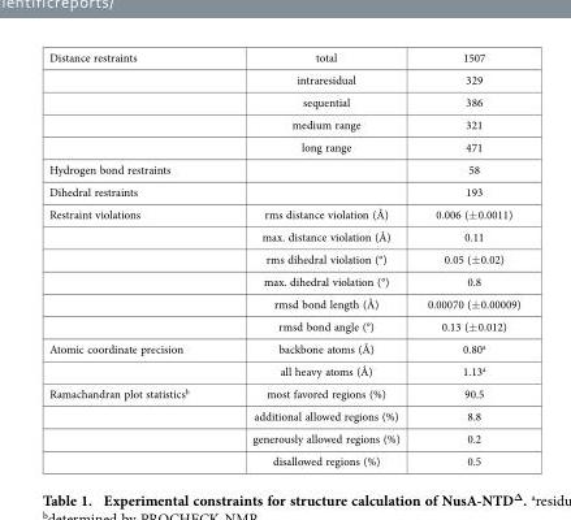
<table><tbody><tr><td rowspan="5">Distance restraints</td><td>total</td><td>1507</td></tr><tr><td>intraresidual</td><td>329</td></tr><tr><td>sequential</td><td>386</td></tr><tr><td>medium range</td><td>321</td></tr><tr><td>long range</td><td>471</td></tr><tr><td>Hydrogen bond restraints</td><td></td><td>58</td></tr><tr><td>Dihedral restraints</td><td></td><td>193</td></tr><tr><td rowspan="6">Restraint violations</td><td>rms distance violation (Å)</td><td>0.006 (± 0.0011)</td></tr><tr><td>max. distance violation (Å)</td><td>0.11</td></tr><tr><td>rms dihedral violation (°)</td><td>0.05 (± 0.02)</td></tr><tr><td>max. dihedral violation (°)</td><td>0.8</td></tr><tr><td>rmsd bond length (Å)</td><td>0.00070 (± 0.00009)</td></tr><tr><td>rmsd bond angle (°)</td><td>0.13 (± 0.012)</td></tr><tr><td rowspan="2">Atomic coordinate precision</td><td>backbone atoms (Å)</td><td>0.80<sup>a</sup></td></tr><tr><td>all heavy atoms (Å)</td><td>1.13<sup>a</sup></td></tr><tr><td rowspan="4">Ramachandran plot statistics<sup>b</sup></td><td>most favored regions (%)</td><td>90.5</td></tr><tr><td>additional allowed regions (%)</td><td>8.8</td></tr><tr><td>generously allowed regions (%)</td><td>0.2</td></tr><tr><td>disallowed regions (%)</td><td>0.5</td></tr></tbody></table>